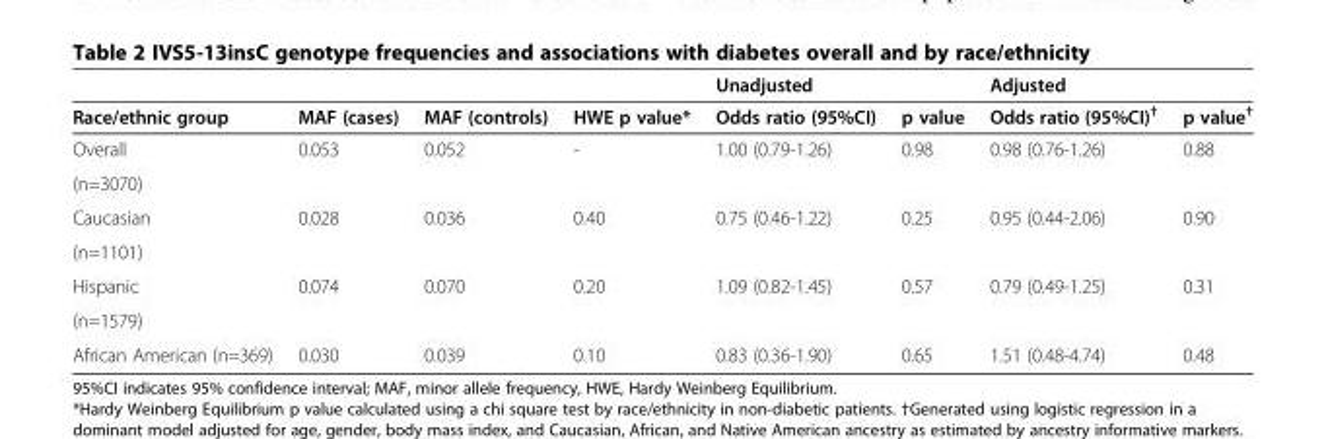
<table><thead><tr><td></td><td></td><td></td><td></td><td>Unadjusted</td><td></td><td>Adjusted</td><td></td></tr></thead><tbody><tr><td>Race/ethnic group</td><td>MAF (cases)</td><td>MAF (controls)</td><td>HWE p value*</td><td>Odds ratio (95%CI)</td><td>p value</td><td>Odds ratio (95%CI)<sup>†</sup></td><td>p value<sup>†</sup></td></tr><tr><td>Overall</td><td>0.053</td><td>0.052</td><td>-</td><td>1.00 (0.79-1.26)</td><td>0.98</td><td>0.98 (0.76-1.26)</td><td>0.88</td></tr><tr><td colspan="8">(n=3070)</td></tr><tr><td>Caucasian</td><td>0.028</td><td>0.036</td><td>0.40</td><td>0.75 (0.46-1.22)</td><td>0.25</td><td>0.95 (0.44-2.06)</td><td>0.90</td></tr><tr><td colspan="8">(n=1101)</td></tr><tr><td>Hispanic</td><td>0.074</td><td>0.070</td><td>0.20</td><td>1.09 (0.82-1.45)</td><td>0.57</td><td>0.79 (0.49-1.25)</td><td>0.31</td></tr><tr><td colspan="8">(n=1579)</td></tr><tr><td>African American (n=369)</td><td>0.030</td><td>0.039</td><td>0.10</td><td>0.83 (0.36-1.90)</td><td>0.65</td><td>1.51 (0.48-4.74)</td><td>0.48</td></tr></tbody></table>